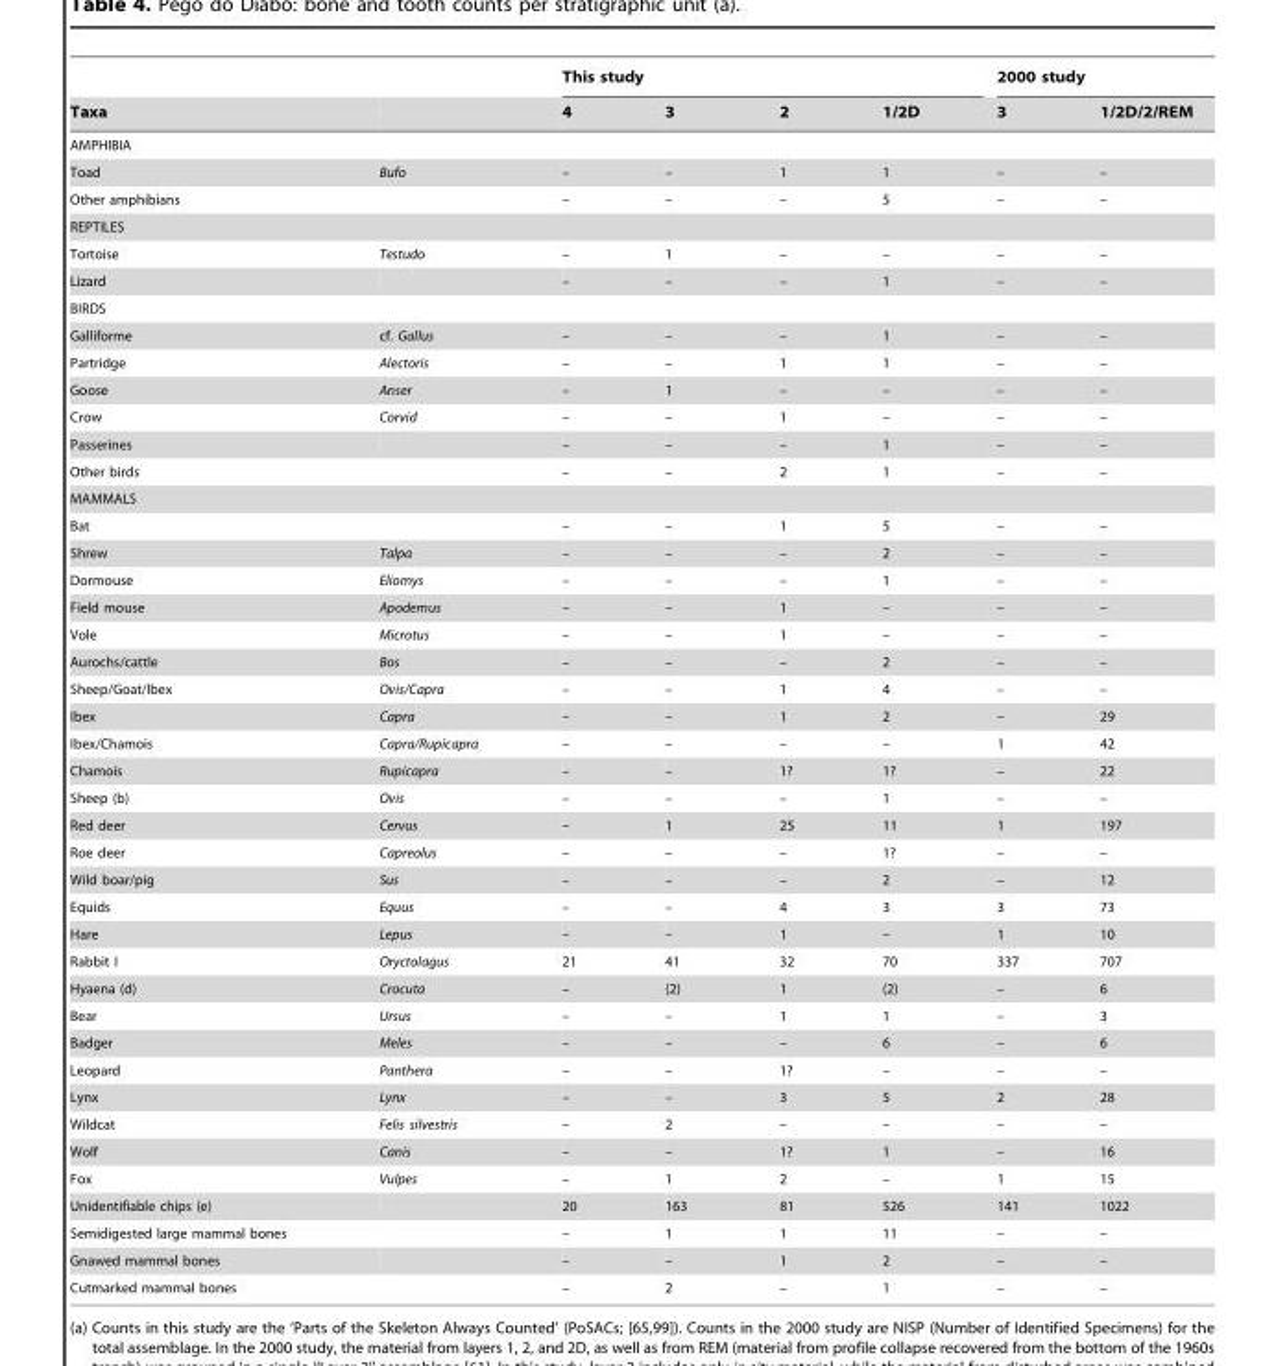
<table><thead><tr><td rowspan="2">Taxa</td><td rowspan="2"></td><td colspan="4">This study</td><td colspan="2">2000 study</td></tr><tr><td>4</td><td>3</td><td>2</td><td>1/2D</td><td>3</td><td>1/2D/2/REM</td></tr></thead><tbody><tr><td colspan="8">AMPHIBIA</td></tr><tr><td>Toad</td><td>Bufo</td><td>–</td><td>–</td><td>1</td><td>1</td><td>–</td><td>–</td></tr><tr><td>Other amphibians</td><td></td><td>–</td><td>–</td><td>–</td><td>5</td><td>–</td><td>–</td></tr><tr><td colspan="8">REPTILES</td></tr><tr><td>Tortoise</td><td>Testudo</td><td>–</td><td>1</td><td>–</td><td>–</td><td>–</td><td>–</td></tr><tr><td>Lizard</td><td></td><td>–</td><td>–</td><td>–</td><td>1</td><td>–</td><td>–</td></tr><tr><td colspan="8">BIRDS</td></tr><tr><td>Galliforme</td><td>cf. Gallus</td><td>–</td><td>–</td><td>–</td><td>1</td><td>–</td><td>–</td></tr><tr><td>Partridge</td><td>Alectoris</td><td>–</td><td>–</td><td>1</td><td>1</td><td>–</td><td>–</td></tr><tr><td>Goose</td><td>Anser</td><td>–</td><td>1</td><td>–</td><td>–</td><td>–</td><td>–</td></tr><tr><td>Crow</td><td>Corvid</td><td>–</td><td>–</td><td>1</td><td>–</td><td>–</td><td>–</td></tr><tr><td>Passerines</td><td></td><td>–</td><td>–</td><td>–</td><td>1</td><td>–</td><td>–</td></tr><tr><td>Other birds</td><td></td><td>–</td><td>–</td><td>2</td><td>1</td><td>–</td><td>–</td></tr><tr><td colspan="8">MAMMALS</td></tr><tr><td>Bat</td><td></td><td>–</td><td>–</td><td>1</td><td>5</td><td>–</td><td>–</td></tr><tr><td>Shrew</td><td>Talpa</td><td>–</td><td>–</td><td>–</td><td>2</td><td>–</td><td>–</td></tr><tr><td>Dormouse</td><td>Eliomys</td><td>–</td><td>–</td><td>–</td><td>1</td><td>–</td><td>–</td></tr><tr><td>Field mouse</td><td>Apodemus</td><td>–</td><td>–</td><td>1</td><td>–</td><td>–</td><td>–</td></tr><tr><td>Vole</td><td>Microtus</td><td>–</td><td>–</td><td>1</td><td>–</td><td>–</td><td>–</td></tr><tr><td>Aurochs/cattle</td><td>Bos</td><td>–</td><td>–</td><td>–</td><td>2</td><td>–</td><td>–</td></tr><tr><td>Sheep/Goat/Ibex</td><td>Ovis/Capra</td><td>–</td><td>–</td><td>1</td><td>4</td><td>–</td><td>–</td></tr><tr><td>Ibex</td><td>Capra</td><td>–</td><td>–</td><td>1</td><td>2</td><td>–</td><td>29</td></tr><tr><td>Ibex/Chamois</td><td>Capra/Rupicapra</td><td>–</td><td>–</td><td>–</td><td>–</td><td>1</td><td>42</td></tr><tr><td>Chamois</td><td>Rupicapra</td><td>–</td><td>–</td><td>1?</td><td>1?</td><td>–</td><td>22</td></tr><tr><td>Sheep (b)</td><td>Ovis</td><td>–</td><td>–</td><td>–</td><td>1</td><td>–</td><td>–</td></tr><tr><td>Red deer</td><td>Cervus</td><td>–</td><td>1</td><td>25</td><td>11</td><td>1</td><td>197</td></tr><tr><td>Roe deer</td><td>Capreolus</td><td>–</td><td>–</td><td>–</td><td>1?</td><td>–</td><td>–</td></tr><tr><td>Wild boar/pig</td><td>Sus</td><td>–</td><td>–</td><td>–</td><td>2</td><td>–</td><td>12</td></tr><tr><td>Equids</td><td>Equus</td><td>–</td><td>–</td><td>4</td><td>3</td><td>3</td><td>73</td></tr><tr><td>Hare</td><td>Lepus</td><td>–</td><td>–</td><td>1</td><td>–</td><td>1</td><td>10</td></tr><tr><td>Rabbit I</td><td>Oryctolagus</td><td>21</td><td>41</td><td>32</td><td>70</td><td>337</td><td>707</td></tr><tr><td>Hyaena (d)</td><td>Crocuta</td><td>–</td><td>(2)</td><td>1</td><td>(2)</td><td>–</td><td>6</td></tr><tr><td>Bear</td><td>Ursus</td><td>–</td><td>–</td><td>1</td><td>1</td><td>–</td><td>3</td></tr><tr><td>Badger</td><td>Meles</td><td>–</td><td>–</td><td>–</td><td>6</td><td>–</td><td>6</td></tr><tr><td>Leopard</td><td>Panthera</td><td>–</td><td>–</td><td>1?</td><td>–</td><td>–</td><td>–</td></tr><tr><td>Lynx</td><td>Lynx</td><td>–</td><td>–</td><td>3</td><td>5</td><td>2</td><td>28</td></tr><tr><td>Wildcat</td><td>Felis silvestris</td><td>–</td><td>2</td><td>–</td><td>–</td><td>–</td><td>–</td></tr><tr><td>Wolf</td><td>Canis</td><td>–</td><td>–</td><td>1?</td><td>1</td><td>–</td><td>16</td></tr><tr><td>Fox</td><td>Vulpes</td><td>–</td><td>1</td><td>2</td><td>–</td><td>1</td><td>15</td></tr><tr><td>Unidentifiable chips (e)</td><td></td><td>20</td><td>163</td><td>81</td><td>526</td><td>141</td><td>1022</td></tr><tr><td>Semidigested large mammal bones</td><td></td><td>–</td><td>1</td><td>1</td><td>11</td><td>–</td><td>–</td></tr><tr><td>Gnawed mammal bones</td><td></td><td>–</td><td>–</td><td>1</td><td>2</td><td>–</td><td>–</td></tr><tr><td>Cutmarked mammal bones</td><td></td><td>–</td><td>2</td><td>–</td><td>1</td><td>–</td><td>–</td></tr></tbody></table>